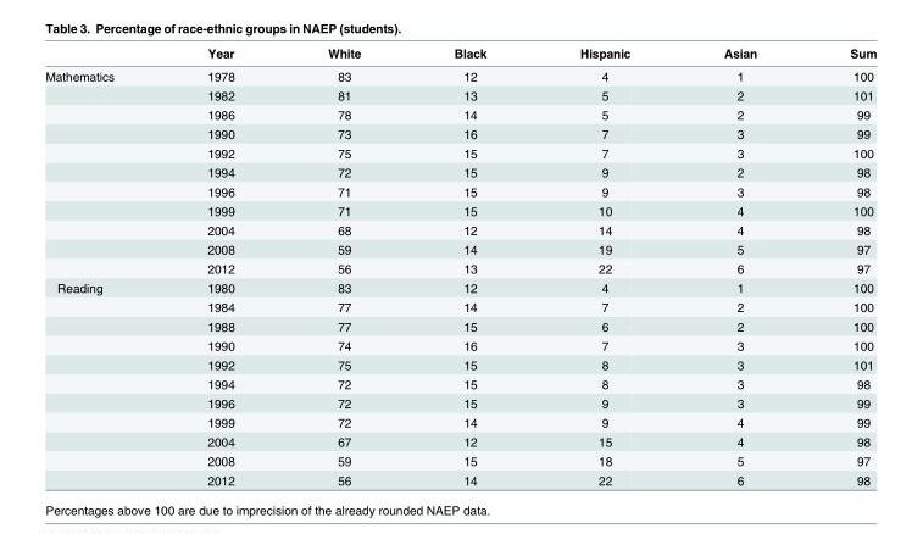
<table><thead><tr><td></td><td>Year</td><td>White</td><td>Black</td><td>Hispanic</td><td>Asian</td><td>Sum</td></tr></thead><tbody><tr><td rowspan="11">Mathematics</td><td>1978</td><td>83</td><td>12</td><td>4</td><td>1</td><td>100</td></tr><tr><td>1982</td><td>81</td><td>13</td><td>5</td><td>2</td><td>101</td></tr><tr><td>1986</td><td>78</td><td>14</td><td>5</td><td>2</td><td>99</td></tr><tr><td>1990</td><td>73</td><td>16</td><td>7</td><td>3</td><td>99</td></tr><tr><td>1992</td><td>75</td><td>15</td><td>7</td><td>3</td><td>100</td></tr><tr><td>1994</td><td>72</td><td>15</td><td>9</td><td>2</td><td>98</td></tr><tr><td>1996</td><td>71</td><td>15</td><td>9</td><td>3</td><td>98</td></tr><tr><td>1999</td><td>71</td><td>15</td><td>10</td><td>4</td><td>100</td></tr><tr><td>2004</td><td>68</td><td>12</td><td>14</td><td>4</td><td>98</td></tr><tr><td>2008</td><td>59</td><td>14</td><td>19</td><td>5</td><td>97</td></tr><tr><td>2012</td><td>56</td><td>13</td><td>22</td><td>6</td><td>97</td></tr><tr><td rowspan="11">Reading</td><td>1980</td><td>83</td><td>12</td><td>4</td><td>1</td><td>100</td></tr><tr><td>1984</td><td>77</td><td>14</td><td>7</td><td>2</td><td>100</td></tr><tr><td>1988</td><td>77</td><td>15</td><td>6</td><td>2</td><td>100</td></tr><tr><td>1990</td><td>74</td><td>16</td><td>7</td><td>3</td><td>100</td></tr><tr><td>1992</td><td>75</td><td>15</td><td>8</td><td>3</td><td>101</td></tr><tr><td>1994</td><td>72</td><td>15</td><td>8</td><td>3</td><td>98</td></tr><tr><td>1996</td><td>72</td><td>15</td><td>9</td><td>3</td><td>99</td></tr><tr><td>1999</td><td>72</td><td>14</td><td>9</td><td>4</td><td>99</td></tr><tr><td>2004</td><td>67</td><td>12</td><td>15</td><td>4</td><td>98</td></tr><tr><td>2008</td><td>59</td><td>15</td><td>18</td><td>5</td><td>97</td></tr><tr><td>2012</td><td>56</td><td>14</td><td>22</td><td>6</td><td>98</td></tr></tbody></table>